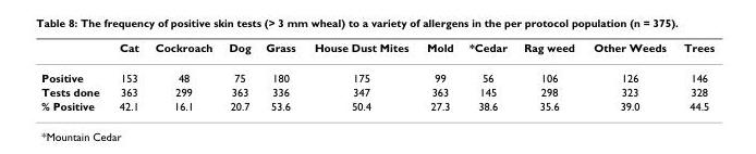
<table><thead><tr><td></td><td>Cat</td><td>Cockroach</td><td>Dog</td><td>Grass</td><td>House Dust Mites</td><td>Mold</td><td>*Cedar</td><td>Rag weed</td><td>Other Weeds</td><td>Trees</td></tr></thead><tbody><tr><td>Positive</td><td>153</td><td>48</td><td>75</td><td>180</td><td>175</td><td>99</td><td>56</td><td>106</td><td>126</td><td>146</td></tr><tr><td>Tests done</td><td>363</td><td>299</td><td>363</td><td>336</td><td>347</td><td>363</td><td>145</td><td>298</td><td>323</td><td>328</td></tr><tr><td>% Positive</td><td>42.1</td><td>16.1</td><td>20.7</td><td>53.6</td><td>50.4</td><td>27.3</td><td>38.6</td><td>35.6</td><td>39.0</td><td>44.5</td></tr></tbody></table>